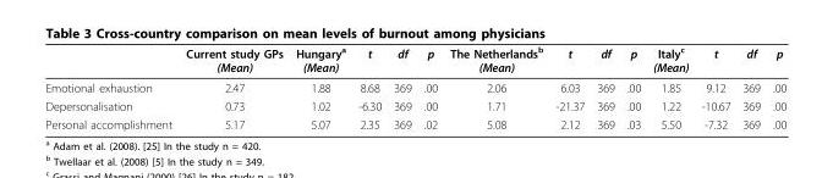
<table><thead><tr><td></td><td>Current study GPs (Mean)</td><td>Hungary<sup>a</sup> (Mean)</td><td>t</td><td>df</td><td>p</td><td>The Netherlands<sup>b</sup> (Mean)</td><td>t</td><td>df</td><td>p</td><td>Italy<sup>c</sup> (Mean)</td><td>t</td><td>df</td><td>p</td></tr></thead><tbody><tr><td>Emotional exhaustion</td><td>2.47</td><td>1.88</td><td>8.68</td><td>369</td><td>.00</td><td>2.06</td><td>6.03</td><td>369</td><td>.00</td><td>1.85</td><td>9.12</td><td>369</td><td>.00</td></tr><tr><td>Depersonalisation</td><td>0.73</td><td>1.02</td><td>-6.30</td><td>369</td><td>.00</td><td>1.71</td><td>-21.37</td><td>369</td><td>.00</td><td>1.22</td><td>-10.67</td><td>369</td><td>.00</td></tr><tr><td>Personal accomplishment</td><td>5.17</td><td>5.07</td><td>2.35</td><td>369</td><td>.02</td><td>5.08</td><td>2.12</td><td>369</td><td>.03</td><td>5.50</td><td>-7.32</td><td>369</td><td>.00</td></tr></tbody></table>